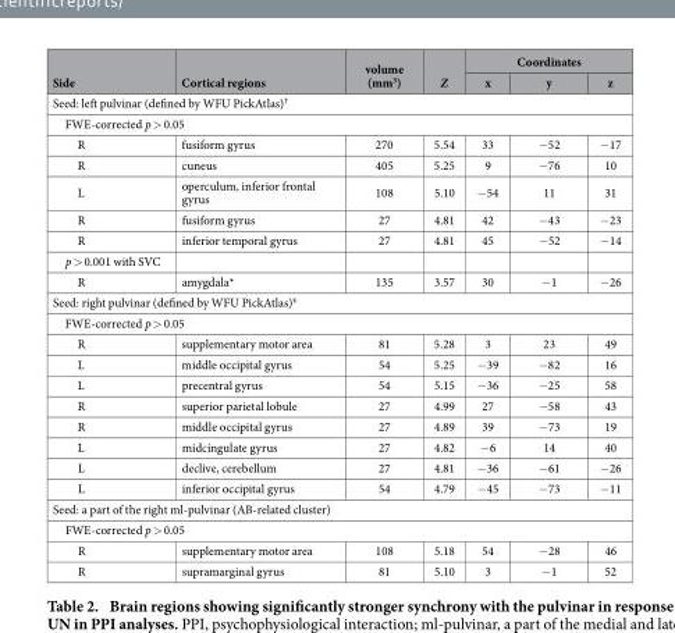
<table><thead><tr><td rowspan="2">Side</td><td rowspan="2">Cortical regions</td><td rowspan="2">volume (mm<sup>3</sup>)</td><td rowspan="2">Z</td><td colspan="3">Coordinates</td></tr><tr><td>x</td><td>y</td><td>z</td></tr></thead><tbody><tr><td colspan="7">Seed: left pulvinar (defined by WFU PickAtlas)†</td></tr><tr><td colspan="7">FWE-corrected p &gt; 0.05</td></tr><tr><td>R</td><td>fusiform gyrus</td><td>270</td><td>5.54</td><td>33</td><td>− 52</td><td>− 17</td></tr><tr><td>R</td><td>cuneus</td><td>405</td><td>5.25</td><td>9</td><td>− 76</td><td>10</td></tr><tr><td>L</td><td>operculum, inferior frontal gyrus</td><td>108</td><td>5.10</td><td>− 54</td><td>11</td><td>31</td></tr><tr><td>R</td><td>fusiform gyrus</td><td>27</td><td>4.81</td><td>42</td><td>− 43</td><td>− 23</td></tr><tr><td>R</td><td>inferior temporal gyrus</td><td>27</td><td>4.81</td><td>45</td><td>− 52</td><td>− 14</td></tr><tr><td colspan="7">p &gt; 0.001 with SVC</td></tr><tr><td>R</td><td>amygdala*</td><td>135</td><td>3.57</td><td>30</td><td>− 1</td><td>− 26</td></tr><tr><td colspan="7">Seed: right pulvinar (defined by WFU PickAtlas)§</td></tr><tr><td colspan="7">FWE-corrected p &gt; 0.05</td></tr><tr><td>R</td><td>supplementary motor area</td><td>81</td><td>5.28</td><td>3</td><td>23</td><td>49</td></tr><tr><td>L</td><td>middle occipital gyrus</td><td>54</td><td>5.25</td><td>− 39</td><td>− 82</td><td>16</td></tr><tr><td>L</td><td>precentral gyrus</td><td>54</td><td>5.15</td><td>− 36</td><td>− 25</td><td>58</td></tr><tr><td>R</td><td>superior parietal lobule</td><td>27</td><td>4.99</td><td>27</td><td>− 58</td><td>43</td></tr><tr><td>R</td><td>middle occipital gyrus</td><td>27</td><td>4.89</td><td>39</td><td>− 73</td><td>19</td></tr><tr><td>L</td><td>midcingulate gyrus</td><td>27</td><td>4.82</td><td>− 6</td><td>14</td><td>40</td></tr><tr><td>L</td><td>declive, cerebellum</td><td>27</td><td>4.81</td><td>− 36</td><td>− 61</td><td>− 26</td></tr><tr><td>L</td><td>inferior occipital gyrus</td><td>54</td><td>4.79</td><td>− 45</td><td>− 73</td><td>− 11</td></tr><tr><td colspan="7">Seed: a part of the right ml-pulvinar (AB-related cluster)</td></tr><tr><td colspan="7">FWE-corrected p &gt; 0.05</td></tr><tr><td>R</td><td>supplementary motor area</td><td>108</td><td>5.18</td><td>54</td><td>− 28</td><td>46</td></tr><tr><td>R</td><td>supramarginal gyrus</td><td>81</td><td>5.10</td><td>3</td><td>− 1</td><td>52</td></tr></tbody></table>